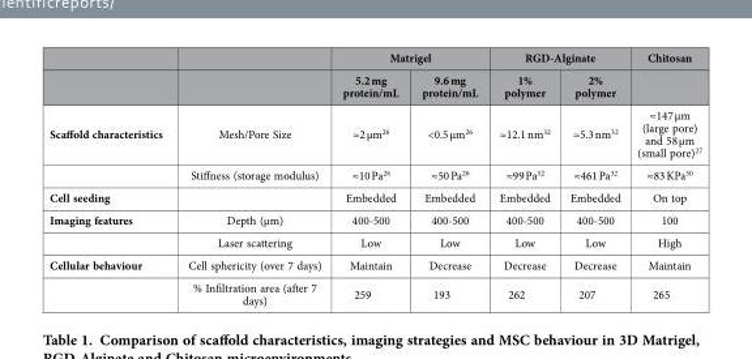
<table><thead><tr><td rowspan="2"></td><td rowspan="2"></td><td colspan="2">Matrigel</td><td colspan="2">RGD-Alginate</td><td rowspan="2">Chitosan</td></tr><tr><td>5.2 mg protein/mL</td><td>9.6 mg protein/mL</td><td>1% polymer</td><td>2% polymer</td></tr></thead><tbody><tr><td rowspan="2">Scaffold characteristics</td><td>Mesh/Pore Size</td><td>≈2 μm26</td><td>&lt;0.5 μm26</td><td>≈12.1 nm32</td><td>≈5.3 nm32</td><td>≈147 μm (large pore) and 58 μm (small pore)27</td></tr><tr><td>Stiffness (storage modulus)</td><td>≈10 Pa26</td><td>≈50 Pa26</td><td>≈99 Pa32</td><td>≈461 Pa32</td><td>≈83 KPa50</td></tr><tr><td>Cell seeding</td><td></td><td>Embedded</td><td>Embedded</td><td>Embedded</td><td>Embedded</td><td>On top</td></tr><tr><td rowspan="2">Imaging features</td><td>Depth (μm)</td><td>400-500</td><td>400-500</td><td>400-500</td><td>400-500</td><td>100</td></tr><tr><td>Laser scattering</td><td>Low</td><td>Low</td><td>Low</td><td>Low</td><td>High</td></tr><tr><td rowspan="2">Cellular behaviour</td><td>Cell sphericity (over 7 days)</td><td>Maintain</td><td>Decrease</td><td>Decrease</td><td>Decrease</td><td>Maintain</td></tr><tr><td>% Infiltration area (after 7 days)</td><td>259</td><td>193</td><td>262</td><td>207</td><td>265</td></tr></tbody></table>